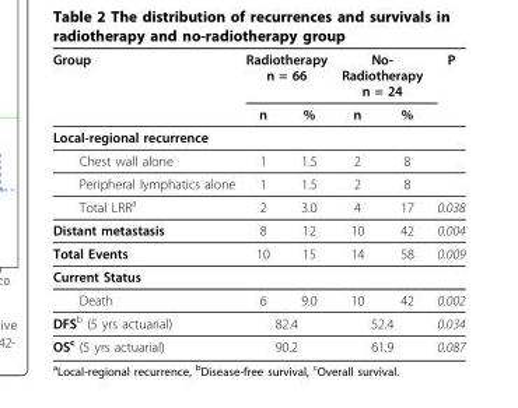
<table><thead><tr><td rowspan="2">Group</td><td colspan="2">Radiotherapy n = 66</td><td colspan="2">No- Radiotherapy n = 24</td><td rowspan="2">P</td></tr><tr><td>n</td><td>%</td><td>n</td><td>%</td></tr></thead><tbody><tr><td colspan="6">Local-regional recurrence</td></tr><tr><td>Chest wall alone</td><td>1</td><td>1.5</td><td>2</td><td>8</td><td></td></tr><tr><td>Peripheral lymphatics alone</td><td>1</td><td>1.5</td><td>2</td><td>8</td><td></td></tr><tr><td>Total LRR<sup>a</sup></td><td>2</td><td>3.0</td><td>4</td><td>17</td><td>0.038</td></tr><tr><td>Distant metastasis</td><td>8</td><td>12</td><td>10</td><td>42</td><td>0.004</td></tr><tr><td>Total Events</td><td>10</td><td>15</td><td>14</td><td>58</td><td>0.009</td></tr><tr><td colspan="6">Current Status</td></tr><tr><td>Death</td><td>6</td><td>9.0</td><td>10</td><td>42</td><td>0.002</td></tr><tr><td>DFS<sup>b</sup> (5 yrs actuarial)</td><td colspan="2">82.4</td><td colspan="2">52.4</td><td>0.034</td></tr><tr><td>OS<sup>c</sup> (5 yrs actuarial)</td><td colspan="2">90.2</td><td colspan="2">61.9</td><td>0.087</td></tr></tbody></table>